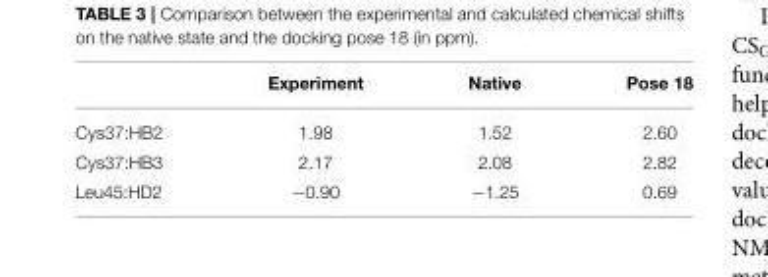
<table><thead><tr><td></td><td>Experiment</td><td>Native</td><td>Pose 18</td></tr></thead><tbody><tr><td>Cys37:HB2</td><td>1.98</td><td>1.52</td><td>2.60</td></tr><tr><td>Cys37:HB3</td><td>2.17</td><td>2.08</td><td>2.82</td></tr><tr><td>Leu45:HD2</td><td>−0.90</td><td>−1.25</td><td>0.69</td></tr></tbody></table>